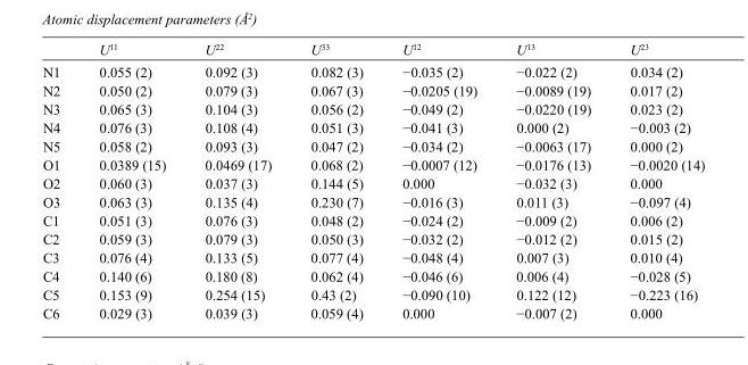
<table><thead><tr><td></td><td>U<sup>11</sup></td><td>U<sup>22</sup></td><td>U<sup>33</sup></td><td>U<sup>12</sup></td><td>U<sup>13</sup></td><td>U<sup>23</sup></td></tr></thead><tbody><tr><td>N1</td><td>0.055 (2)</td><td>0.092 (3)</td><td>0.082 (3)</td><td>−0.035 (2)</td><td>−0.022 (2)</td><td>0.034 (2)</td></tr><tr><td>N2</td><td>0.050 (2)</td><td>0.079 (3)</td><td>0.067 (3)</td><td>−0.0205 (19)</td><td>−0.0089 (19)</td><td>0.017 (2)</td></tr><tr><td>N3</td><td>0.065 (3)</td><td>0.104 (3)</td><td>0.056 (2)</td><td>−0.049 (2)</td><td>−0.0220 (19)</td><td>0.023 (2)</td></tr><tr><td>N4</td><td>0.076 (3)</td><td>0.108 (4)</td><td>0.051 (3)</td><td>−0.041 (3)</td><td>0.000 (2)</td><td>−0.003 (2)</td></tr><tr><td>N5</td><td>0.058 (2)</td><td>0.093 (3)</td><td>0.047 (2)</td><td>−0.034 (2)</td><td>−0.0063 (17)</td><td>0.000 (2)</td></tr><tr><td>O1</td><td>0.0389 (15)</td><td>0.0469 (17)</td><td>0.068 (2)</td><td>−0.0007 (12)</td><td>−0.0176 (13)</td><td>−0.0020 (14)</td></tr><tr><td>O2</td><td>0.060 (3)</td><td>0.037 (3)</td><td>0.144 (5)</td><td>0.000</td><td>−0.032 (3)</td><td>0.000</td></tr><tr><td>O3</td><td>0.063 (3)</td><td>0.135 (4)</td><td>0.230 (7)</td><td>−0.016 (3)</td><td>0.011 (3)</td><td>−0.097 (4)</td></tr><tr><td>C1</td><td>0.051 (3)</td><td>0.076 (3)</td><td>0.048 (2)</td><td>−0.024 (2)</td><td>−0.009 (2)</td><td>0.006 (2)</td></tr><tr><td>C2</td><td>0.059 (3)</td><td>0.079 (3)</td><td>0.050 (3)</td><td>−0.032 (2)</td><td>−0.012 (2)</td><td>0.015 (2)</td></tr><tr><td>C3</td><td>0.076 (4)</td><td>0.133 (5)</td><td>0.077 (4)</td><td>−0.048 (4)</td><td>0.007 (3)</td><td>0.010 (4)</td></tr><tr><td>C4</td><td>0.140 (6)</td><td>0.180 (8)</td><td>0.062 (4)</td><td>−0.046 (6)</td><td>0.006 (4)</td><td>−0.028 (5)</td></tr><tr><td>C5</td><td>0.153 (9)</td><td>0.254 (15)</td><td>0.43 (2)</td><td>−0.090 (10)</td><td>0.122 (12)</td><td>−0.223 (16)</td></tr><tr><td>C6</td><td>0.029 (3)</td><td>0.039 (3)</td><td>0.059 (4)</td><td>0.000</td><td>−0.007 (2)</td><td>0.000</td></tr></tbody></table>